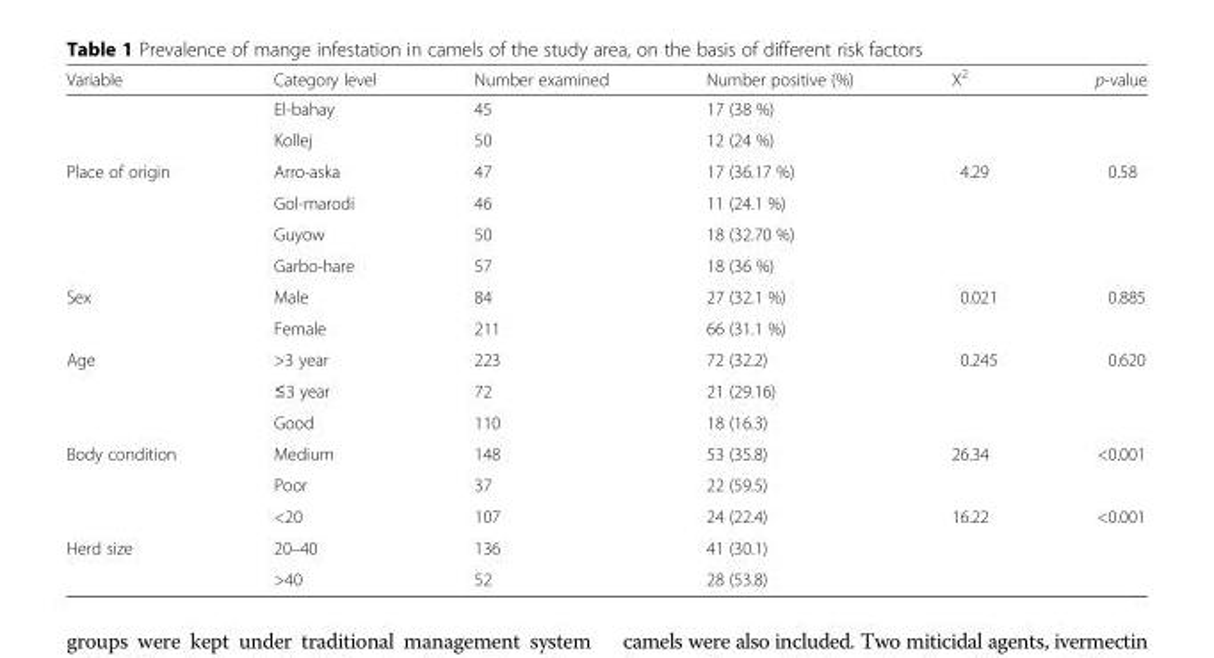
<table><thead><tr><td>Variable</td><td>Category level</td><td>Number examined</td><td>Number positive (%)</td><td>X<sup>2</sup></td><td>p-value</td></tr></thead><tbody><tr><td></td><td>El-bahay</td><td>45</td><td>17 (38 %)</td><td></td><td></td></tr><tr><td></td><td>Kollej</td><td>50</td><td>12 (24 %)</td><td></td><td></td></tr><tr><td rowspan="4">Place of origin</td><td>Arro-aska</td><td>47</td><td>17 (36.17 %)</td><td>4.29</td><td>0.58</td></tr><tr><td>Gol-marodi</td><td>46</td><td>11 (24.1 %)</td><td></td><td></td></tr><tr><td>Guyow</td><td>50</td><td>18 (32.70 %)</td><td></td><td></td></tr><tr><td>Garbo-hare</td><td>57</td><td>18 (36 %)</td><td></td><td></td></tr><tr><td rowspan="2">Sex</td><td>Male</td><td>84</td><td>27 (32.1 %)</td><td>0.021</td><td>0.885</td></tr><tr><td>Female</td><td>211</td><td>66 (31.1 %)</td><td></td><td></td></tr><tr><td rowspan="3">Age</td><td>&gt;3 year</td><td>223</td><td>72 (32.2)</td><td>0.245</td><td>0.620</td></tr><tr><td>≤3 year</td><td>72</td><td>21 (29.16)</td><td></td><td></td></tr><tr><td>Good</td><td>110</td><td>18 (16.3)</td><td></td><td></td></tr><tr><td rowspan="3">Body condition</td><td>Medium</td><td>148</td><td>53 (35.8)</td><td>26.34</td><td>&lt;0.001</td></tr><tr><td>Poor</td><td>37</td><td>22 (59.5)</td><td></td><td></td></tr><tr><td>&lt;20</td><td>107</td><td>24 (22.4)</td><td>16.22</td><td>&lt;0.001</td></tr><tr><td rowspan="2">Herd size</td><td>20–40</td><td>136</td><td>41 (30.1)</td><td></td><td></td></tr><tr><td>&gt;40</td><td>52</td><td>28 (53.8)</td><td></td><td></td></tr></tbody></table>